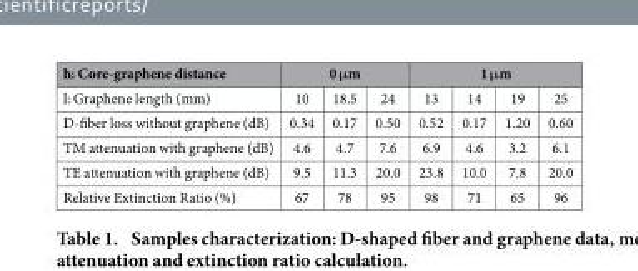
<table><thead><tr><td rowspan="2">h: Core-graphene distance l: Graphene length (mm)</td><td colspan="3">0 μm</td><td colspan="4">1 μm</td></tr><tr><td>10</td><td>18.5</td><td>24</td><td>13</td><td>14</td><td>19</td><td>25</td></tr></thead><tbody><tr><td>D-fiber loss without graphene (dB)</td><td>0.34</td><td>0.17</td><td>0.50</td><td>0.52</td><td>0.17</td><td>1.20</td><td>0.60</td></tr><tr><td>TM attenuation with graphene (dB)</td><td>4.6</td><td>4.7</td><td>7.6</td><td>6.9</td><td>4.6</td><td>3.2</td><td>6.1</td></tr><tr><td>TE attenuation with graphene (dB)</td><td>9.5</td><td>11.3</td><td>20.0</td><td>23.8</td><td>10.0</td><td>7.8</td><td>20.0</td></tr><tr><td>Relative Extinction Ratio (%)</td><td>67</td><td>78</td><td>95</td><td>98</td><td>71</td><td>65</td><td>96</td></tr></tbody></table>